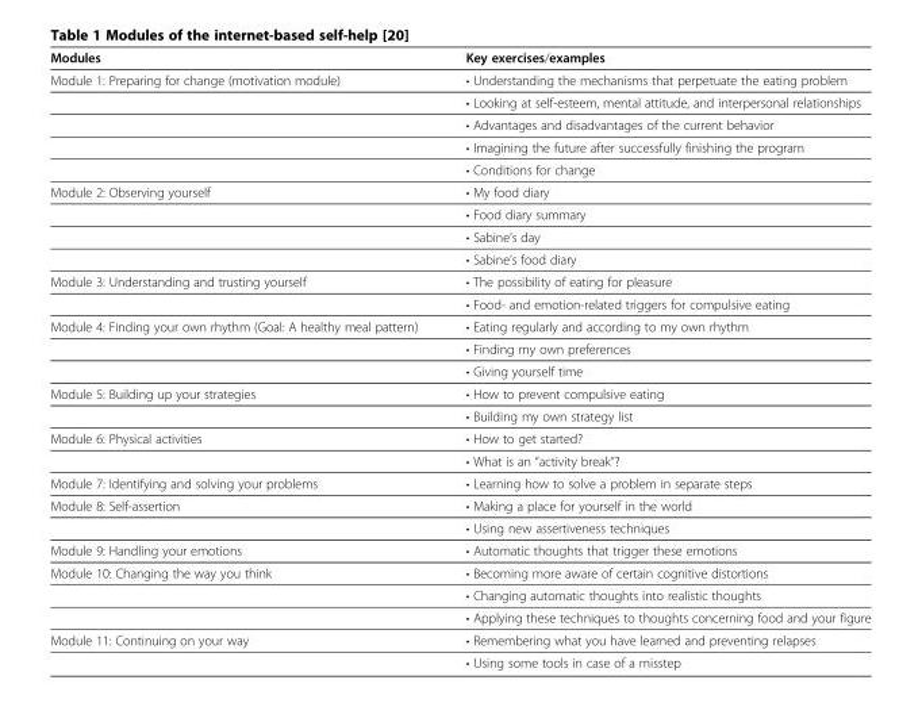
<table><thead><tr><td>Modules</td><td>Key exercises/examples</td></tr></thead><tbody><tr><td rowspan="5">Module 1: Preparing for change (motivation module)</td><td>• Understanding the mechanisms that perpetuate the eating problem</td></tr><tr><td>• Looking at self-esteem, mental attitude, and interpersonal relationships</td></tr><tr><td>• Advantages and disadvantages of the current behavior</td></tr><tr><td>• Imagining the future after successfully finishing the program</td></tr><tr><td>• Conditions for change</td></tr><tr><td rowspan="4">Module 2: Observing yourself</td><td>• My food diary</td></tr><tr><td>• Food diary summary</td></tr><tr><td>• Sabine’s day</td></tr><tr><td>• Sabine’s food diary</td></tr><tr><td rowspan="2">Module 3: Understanding and trusting yourself</td><td>• The possibility of eating for pleasure</td></tr><tr><td>• Food- and emotion-related triggers for compulsive eating</td></tr><tr><td rowspan="3">Module 4: Finding your own rhythm (Goal: A healthy meal pattern)</td><td>• Eating regularly and according to my own rhythm</td></tr><tr><td>• Finding my own preferences</td></tr><tr><td>• Giving yourself time</td></tr><tr><td rowspan="2">Module 5: Building up your strategies</td><td>• How to prevent compulsive eating</td></tr><tr><td>• Building my own strategy list</td></tr><tr><td rowspan="2">Module 6: Physical activities</td><td>• How to get started?</td></tr><tr><td>• What is an “activity break”?</td></tr><tr><td>Module 7: Identifying and solving your problems</td><td>• Learning how to solve a problem in separate steps</td></tr><tr><td rowspan="2">Module 8: Self-assertion</td><td>• Making a place for yourself in the world</td></tr><tr><td>• Using new assertiveness techniques</td></tr><tr><td>Module 9: Handling your emotions</td><td>• Automatic thoughts that trigger these emotions</td></tr><tr><td rowspan="3">Module 10: Changing the way you think</td><td>• Becoming more aware of certain cognitive distortions</td></tr><tr><td>• Changing automatic thoughts into realistic thoughts</td></tr><tr><td>• Applying these techniques to thoughts concerning food and your figure</td></tr><tr><td rowspan="2">Module 11: Continuing on your way</td><td>• Remembering what you have learned and preventing relapses</td></tr><tr><td>• Using some tools in case of a misstep</td></tr></tbody></table>